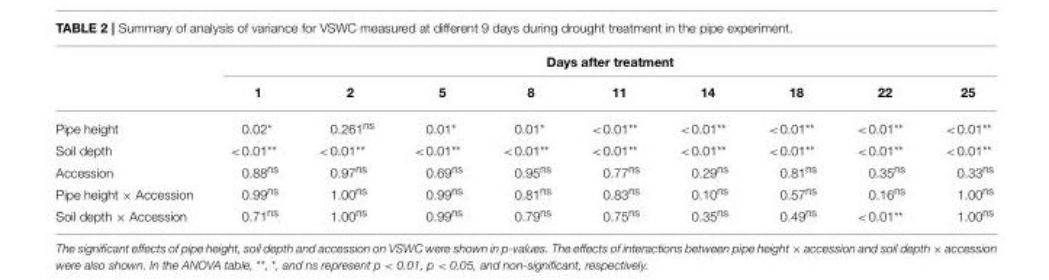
<table><thead><tr><td rowspan="2"></td><td colspan="9">Days after treatment</td></tr><tr><td>1</td><td>2</td><td>5</td><td>8</td><td>11</td><td>14</td><td>18</td><td>22</td><td>25</td></tr></thead><tbody><tr><td>Pipe height</td><td>0.02*</td><td>0.261<sup>ns</sup></td><td>0.01*</td><td>0.01*</td><td>&lt;0.01**</td><td>&lt;0.01**</td><td>&lt;0.01**</td><td>&lt;0.01**</td><td>&lt;0.01**</td></tr><tr><td>Soil depth</td><td>&lt;0.01**</td><td>&lt;0.01**</td><td>&lt;0.01**</td><td>&lt;0.01**</td><td>&lt;0.01**</td><td>&lt;0.01**</td><td>&lt;0.01**</td><td>&lt;0.01**</td><td>&lt;0.01**</td></tr><tr><td>Accession</td><td>0.88<sup>ns</sup></td><td>0.97<sup>ns</sup></td><td>0.69<sup>ns</sup></td><td>0.95<sup>ns</sup></td><td>0.77<sup>ns</sup></td><td>0.29<sup>ns</sup></td><td>0.81<sup>ns</sup></td><td>0.35<sup>ns</sup></td><td>0.33<sup>ns</sup></td></tr><tr><td>Pipe height × Accession</td><td>0.99<sup>ns</sup></td><td>1.00<sup>ns</sup></td><td>0.99<sup>ns</sup></td><td>0.81<sup>ns</sup></td><td>0.83<sup>ns</sup></td><td>0.10<sup>ns</sup></td><td>0.57<sup>ns</sup></td><td>0.16<sup>ns</sup></td><td>1.00<sup>ns</sup></td></tr><tr><td>Soil depth × Accession</td><td>0.71<sup>ns</sup></td><td>1.00<sup>ns</sup></td><td>0.99<sup>ns</sup></td><td>0.79<sup>ns</sup></td><td>0.75<sup>ns</sup></td><td>0.35<sup>ns</sup></td><td>0.49<sup>ns</sup></td><td>&lt;0.01**</td><td>1.00<sup>ns</sup></td></tr></tbody></table>